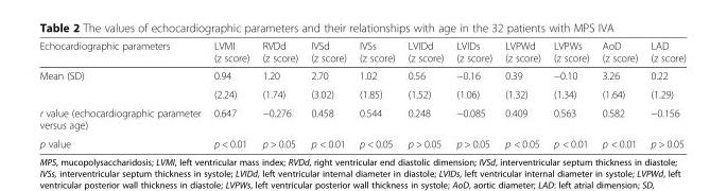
<table><thead><tr><td>Echocardiographic parameters</td><td>LVMI (z score)</td><td>RVDd (z score)</td><td>IVSd (z score)</td><td>IVSs (z score)</td><td>LVIDd (z score)</td><td>LVIDs (z score)</td><td>LVPWd (z score)</td><td>LVPWs (z score)</td><td>AoD (z score)</td><td>LAD (z score)</td></tr></thead><tbody><tr><td rowspan="2">Mean (SD)</td><td>0.94</td><td>1.20</td><td>2.70</td><td>1.02</td><td>0.56</td><td>−0.16</td><td>0.39</td><td>−0.10</td><td>3.26</td><td>0.22</td></tr><tr><td>(2.24)</td><td>(1.74)</td><td>(3.02)</td><td>(1.85)</td><td>(1.52)</td><td>(1.06)</td><td>(1.32)</td><td>(1.34)</td><td>(1.64)</td><td>(1.29)</td></tr><tr><td>r value (echocardiographic parameter versus age)</td><td>0.647</td><td>−0.276</td><td>0.458</td><td>0.544</td><td>0.248</td><td>−0.085</td><td>0.409</td><td>0.563</td><td>0.582</td><td>−0.156</td></tr><tr><td>p value</td><td>p &lt; 0.01</td><td>p &gt; 0.05</td><td>p &lt; 0.01</td><td>p &lt; 0.05</td><td>p &gt; 0.05</td><td>p &gt; 0.05</td><td>p &lt; 0.05</td><td>p &lt; 0.01</td><td>p &lt; 0.01</td><td>p &gt; 0.05</td></tr></tbody></table>